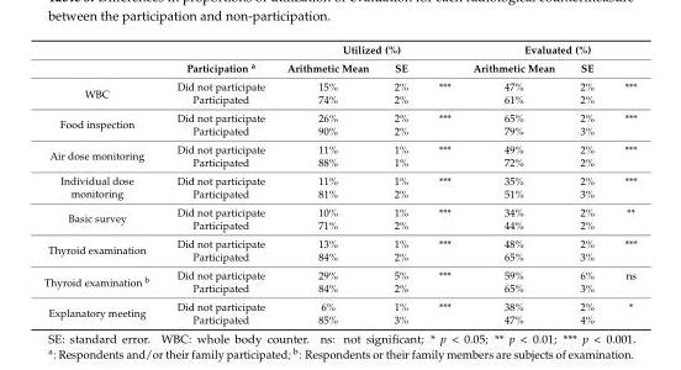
<table><thead><tr><td rowspan="2"></td><td rowspan="2">Participation <sup>a</sup></td><td colspan="3">Utilized (%)</td><td colspan="3">Evaluated (%)</td></tr><tr><td>Arithmetic Mean</td><td>SE</td><td></td><td>Arithmetic Mean</td><td>SE</td><td></td></tr></thead><tbody><tr><td rowspan="2">WBC</td><td>Did not participate</td><td>15%</td><td>2%</td><td>***</td><td>47%</td><td>2%</td><td>***</td></tr><tr><td>Participated</td><td>74%</td><td>2%</td><td></td><td>61%</td><td>2%</td><td></td></tr><tr><td rowspan="2">Food inspection</td><td>Did not participate</td><td>26%</td><td>2%</td><td>***</td><td>65%</td><td>2%</td><td>***</td></tr><tr><td>Participated</td><td>90%</td><td>2%</td><td></td><td>79%</td><td>3%</td><td></td></tr><tr><td rowspan="2">Air dose monitoring</td><td>Did not participate</td><td>11%</td><td>1%</td><td>***</td><td>49%</td><td>2%</td><td>***</td></tr><tr><td>Participated</td><td>88%</td><td>1%</td><td></td><td>72%</td><td>2%</td><td></td></tr><tr><td rowspan="2">Individual dose monitoring</td><td>Did not participate</td><td>11%</td><td>1%</td><td>***</td><td>35%</td><td>2%</td><td>***</td></tr><tr><td>Participated</td><td>81%</td><td>2%</td><td></td><td>51%</td><td>3%</td><td></td></tr><tr><td rowspan="2">Basic survey</td><td>Did not participate</td><td>10%</td><td>1%</td><td>***</td><td>34%</td><td>2%</td><td>**</td></tr><tr><td>Participated</td><td>71%</td><td>2%</td><td></td><td>44%</td><td>2%</td><td></td></tr><tr><td rowspan="2">Thyroid examination</td><td>Did not participate</td><td>13%</td><td>1%</td><td>***</td><td>48%</td><td>2%</td><td>***</td></tr><tr><td>Participated</td><td>84%</td><td>2%</td><td></td><td>65%</td><td>3%</td><td></td></tr><tr><td rowspan="2">Thyroid examination <sup>b</sup></td><td>Did not participate</td><td>29%</td><td>5%</td><td>***</td><td>59%</td><td>6%</td><td>ns</td></tr><tr><td>Participated</td><td>84%</td><td>2%</td><td></td><td>65%</td><td>3%</td><td></td></tr><tr><td rowspan="2">Explanatory meeting</td><td>Did not participate</td><td>6%</td><td>1%</td><td>***</td><td>38%</td><td>2%</td><td>*</td></tr><tr><td>Participated</td><td>85%</td><td>3%</td><td></td><td>47%</td><td>4%</td><td></td></tr></tbody></table>